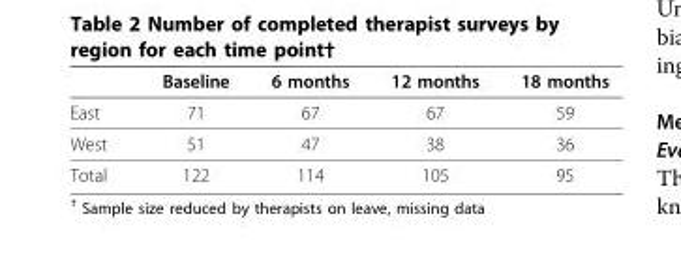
<table><thead><tr><td></td><td>Baseline</td><td>6 months</td><td>12 months</td><td>18 months</td></tr></thead><tbody><tr><td>East</td><td>71</td><td>67</td><td>67</td><td>59</td></tr><tr><td>West</td><td>51</td><td>47</td><td>38</td><td>36</td></tr><tr><td>Total</td><td>122</td><td>114</td><td>105</td><td>95</td></tr></tbody></table>